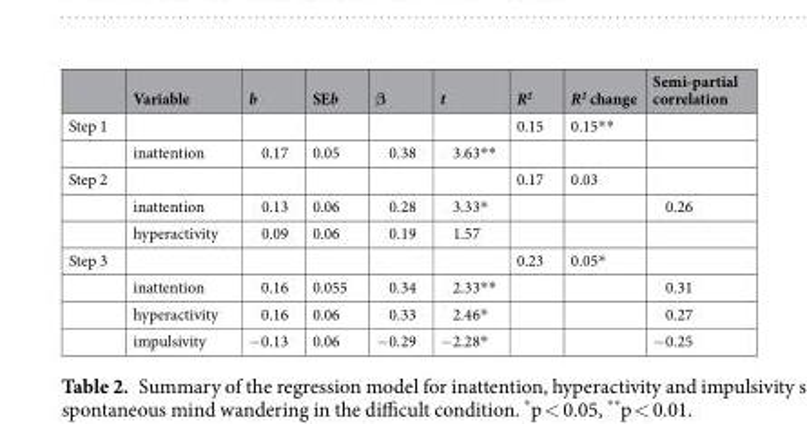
<table><thead><tr><td></td><td>Variable</td><td>b</td><td>SEb</td><td>β</td><td>t</td><td>R<sup>2</sup></td><td>R<sup>2</sup> change</td><td>Semi-partial correlation</td></tr></thead><tbody><tr><td rowspan="2">Step 1</td><td></td><td></td><td></td><td></td><td></td><td>0.15</td><td>0.15**</td><td></td></tr><tr><td>inattention</td><td>0.17</td><td>0.05</td><td>0.38</td><td>3.63**</td><td></td><td></td><td></td></tr><tr><td rowspan="3">Step 2</td><td></td><td></td><td></td><td></td><td></td><td>0.17</td><td>0.03</td><td></td></tr><tr><td>inattention</td><td>0.13</td><td>0.06</td><td>0.28</td><td>3.33*</td><td></td><td></td><td>0.26</td></tr><tr><td>hyperactivity</td><td>0.09</td><td>0.06</td><td>0.19</td><td>1.57</td><td></td><td></td><td></td></tr><tr><td rowspan="4">Step 3</td><td></td><td></td><td></td><td></td><td></td><td>0.23</td><td>0.05*</td><td></td></tr><tr><td>inattention</td><td>0.16</td><td>0.055</td><td>0.34</td><td>2.33**</td><td></td><td></td><td>0.31</td></tr><tr><td>hyperactivity</td><td>0.16</td><td>0.06</td><td>0.33</td><td>2.46*</td><td></td><td></td><td>0.27</td></tr><tr><td>impulsivity</td><td>−0.13</td><td>0.06</td><td>−0.29</td><td>−2.28*</td><td></td><td></td><td>−0.25</td></tr></tbody></table>